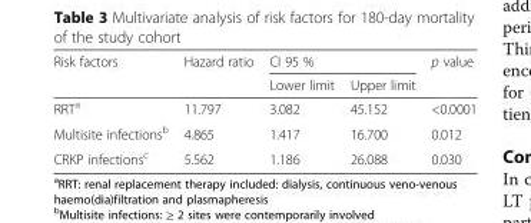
<table><thead><tr><td rowspan="2">Risk factors</td><td rowspan="2">Hazard ratio</td><td colspan="2">CI 95 %</td><td rowspan="2">p value</td></tr><tr><td>Lower limit</td><td>Upper limit</td></tr></thead><tbody><tr><td>RRT<sup>a</sup></td><td>11.797</td><td>3.082</td><td>45.152</td><td>&lt;0.0001</td></tr><tr><td>Multisite infections<sup>b</sup></td><td>4.865</td><td>1.417</td><td>16.700</td><td>0.012</td></tr><tr><td>CRKP infections<sup>c</sup></td><td>5.562</td><td>1.186</td><td>26.088</td><td>0.030</td></tr></tbody></table>